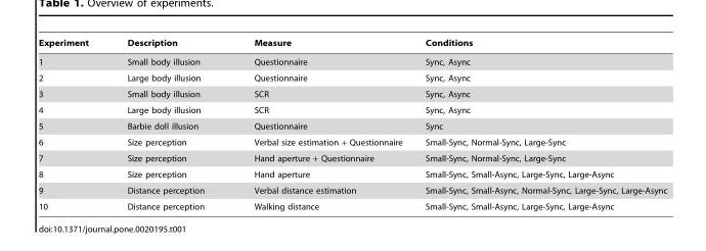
<table><thead><tr><td>Experiment</td><td>Description</td><td>Measure</td><td>Conditions</td></tr></thead><tbody><tr><td>1</td><td>Small body illusion</td><td>Questionnaire</td><td>Sync, Async</td></tr><tr><td>2</td><td>Large body illusion</td><td>Questionnaire</td><td>Sync, Async</td></tr><tr><td>3</td><td>Small body illusion</td><td>SCR</td><td>Sync, Async</td></tr><tr><td>4</td><td>Large body illusion</td><td>SCR</td><td>Sync, Async</td></tr><tr><td>5</td><td>Barbie doll illusion</td><td>Questionnaire</td><td>Sync</td></tr><tr><td>6</td><td>Size perception</td><td>Verbal size estimation + Questionnaire</td><td>Small-Sync, Normal-Sync, Large-Sync</td></tr><tr><td>7</td><td>Size perception</td><td>Hand aperture + Questionnaire</td><td>Small-Sync, Normal-Sync, Large-Sync</td></tr><tr><td>8</td><td>Size perception</td><td>Hand aperture</td><td>Small-Sync, Small-Async, Large-Sync, Large-Async</td></tr><tr><td>9</td><td>Distance perception</td><td>Verbal distance estimation</td><td>Small-Sync, Small-Async, Normal-Sync, Large-Sync, Large-Async</td></tr><tr><td>10</td><td>Distance perception</td><td>Walking distance</td><td>Small-Sync, Small-Async, Large-Sync, Large-Async</td></tr></tbody></table>